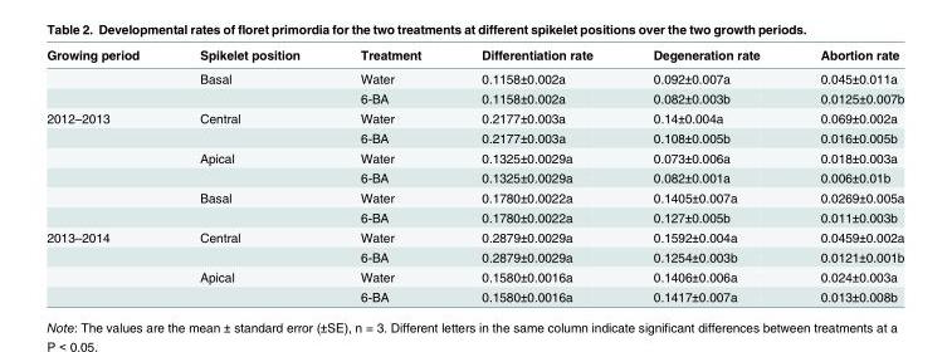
<table><thead><tr><td>Growing period</td><td>Spikelet position</td><td>Treatment</td><td>Differentiation rate</td><td>Degeneration rate</td><td>Abortion rate</td></tr></thead><tbody><tr><td></td><td>Basal</td><td>Water</td><td>0.1158±0.002a</td><td>0.092±0.007a</td><td>0.045±0.011a</td></tr><tr><td></td><td></td><td>6-BA</td><td>0.1158±0.002a</td><td>0.082±0.003b</td><td>0.0125±0.007b</td></tr><tr><td rowspan="6">2012–2013</td><td>Central</td><td>Water</td><td>0.2177±0.003a</td><td>0.14±0.004a</td><td>0.069±0.002a</td></tr><tr><td></td><td>6-BA</td><td>0.2177±0.003a</td><td>0.108±0.005b</td><td>0.016±0.005b</td></tr><tr><td>Apical</td><td>Water</td><td>0.1325±0.0029a</td><td>0.073±0.006a</td><td>0.018±0.003a</td></tr><tr><td></td><td>6-BA</td><td>0.1325±0.0029a</td><td>0.082±0.001a</td><td>0.006±0.01b</td></tr><tr><td>Basal</td><td>Water</td><td>0.1780±0.0022a</td><td>0.1405±0.007a</td><td>0.0269±0.005a</td></tr><tr><td></td><td>6-BA</td><td>0.1780±0.0022a</td><td>0.127±0.005b</td><td>0.011±0.003b</td></tr><tr><td rowspan="4">2013–2014</td><td>Central</td><td>Water</td><td>0.2879±0.0029a</td><td>0.1592±0.004a</td><td>0.0459±0.002a</td></tr><tr><td></td><td>6-BA</td><td>0.2879±0.0029a</td><td>0.1254±0.003b</td><td>0.0121±0.001b</td></tr><tr><td>Apical</td><td>Water</td><td>0.1580±0.0016a</td><td>0.1406±0.006a</td><td>0.024±0.003a</td></tr><tr><td></td><td>6-BA</td><td>0.1580±0.0016a</td><td>0.1417±0.007a</td><td>0.013±0.008b</td></tr></tbody></table>